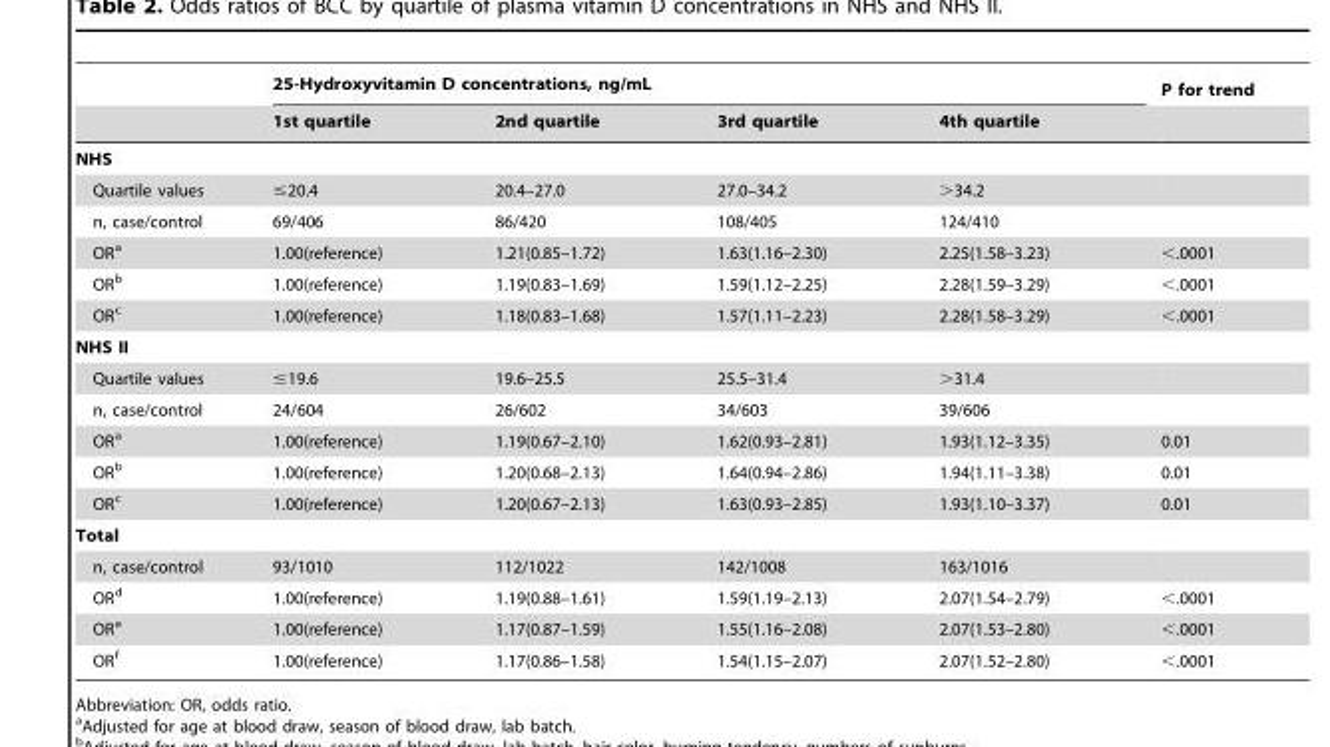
<table><thead><tr><td rowspan="2"></td><td colspan="4">25-Hydroxyvitamin D concentrations, ng/mL</td><td rowspan="2">P for trend</td></tr><tr><td>1st quartile</td><td>2nd quartile</td><td>3rd quartile</td><td>4th quartile</td></tr></thead><tbody><tr><td colspan="6">NHS</td></tr><tr><td>Quartile values</td><td>≤20.4</td><td>20.4–27.0</td><td>27.0–34.2</td><td>&gt;34.2</td><td></td></tr><tr><td>n, case/control</td><td>69/406</td><td>86/420</td><td>108/405</td><td>124/410</td><td></td></tr><tr><td>OR<sup>a</sup></td><td>1.00(reference)</td><td>1.21(0.85–1.72)</td><td>1.63(1.16–2.30)</td><td>2.25(1.58–3.23)</td><td>&lt;.0001</td></tr><tr><td>OR<sup>b</sup></td><td>1.00(reference)</td><td>1.19(0.83–1.69)</td><td>1.59(1.12–2.25)</td><td>2.28(1.59–3.29)</td><td>&lt;.0001</td></tr><tr><td>OR<sup>c</sup></td><td>1.00(reference)</td><td>1.18(0.83–1.68)</td><td>1.57(1.11–2.23)</td><td>2.28(1.58–3.29)</td><td>&lt;.0001</td></tr><tr><td colspan="6">NHS II</td></tr><tr><td>Quartile values</td><td>≤19.6</td><td>19.6–25.5</td><td>25.5–31.4</td><td>&gt;31.4</td><td></td></tr><tr><td>n, case/control</td><td>24/604</td><td>26/602</td><td>34/603</td><td>39/606</td><td></td></tr><tr><td>OR<sup>a</sup></td><td>1.00(reference)</td><td>1.19(0.67–2.10)</td><td>1.62(0.93–2.81)</td><td>1.93(1.12–3.35)</td><td>0.01</td></tr><tr><td>OR<sup>b</sup></td><td>1.00(reference)</td><td>1.20(0.68–2.13)</td><td>1.64(0.94–2.86)</td><td>1.94(1.11–3.38)</td><td>0.01</td></tr><tr><td>OR<sup>c</sup></td><td>1.00(reference)</td><td>1.20(0.67–2.13)</td><td>1.63(0.93–2.85)</td><td>1.93(1.10–3.37)</td><td>0.01</td></tr><tr><td colspan="6">Total</td></tr><tr><td>n, case/control</td><td>93/1010</td><td>112/1022</td><td>142/1008</td><td>163/1016</td><td></td></tr><tr><td>OR<sup>d</sup></td><td>1.00(reference)</td><td>1.19(0.88–1.61)</td><td>1.59(1.19–2.13)</td><td>2.07(1.54–2.79)</td><td>&lt;.0001</td></tr><tr><td>OR<sup>e</sup></td><td>1.00(reference)</td><td>1.17(0.87–1.59)</td><td>1.55(1.16–2.08)</td><td>2.07(1.53–2.80)</td><td>&lt;.0001</td></tr><tr><td>OR<sup>f</sup></td><td>1.00(reference)</td><td>1.17(0.86–1.58)</td><td>1.54(1.15–2.07)</td><td>2.07(1.52–2.80)</td><td>&lt;.0001</td></tr></tbody></table>